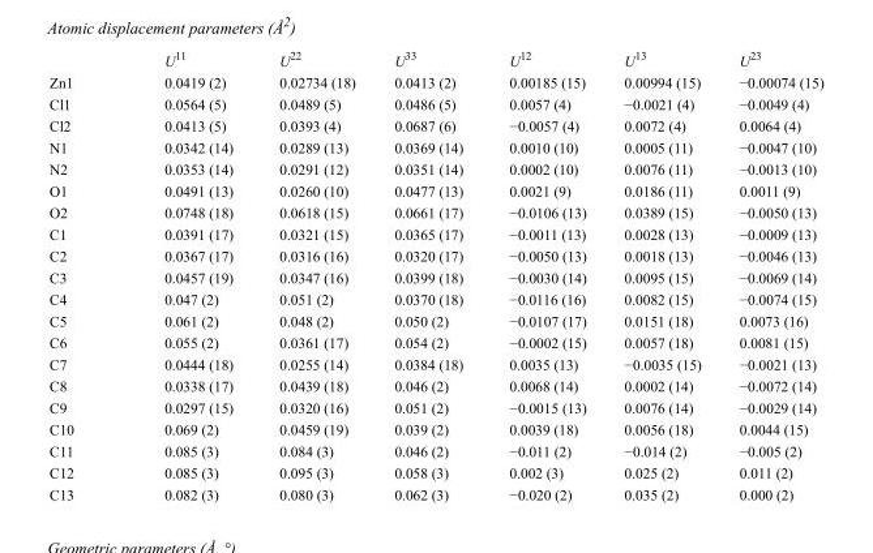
<table><thead><tr><td></td><td>U<sup>11</sup></td><td>U<sup>22</sup></td><td>U<sup>33</sup></td><td>U<sup>12</sup></td><td>U<sup>13</sup></td><td>U<sup>23</sup></td></tr></thead><tbody><tr><td>Zn1</td><td>0.0419 (2)</td><td>0.02734 (18)</td><td>0.0413 (2)</td><td>0.00185 (15)</td><td>0.00994 (15)</td><td>−0.00074 (15)</td></tr><tr><td>Cl1</td><td>0.0564 (5)</td><td>0.0489 (5)</td><td>0.0486 (5)</td><td>0.0057 (4)</td><td>−0.0021 (4)</td><td>−0.0049 (4)</td></tr><tr><td>Cl2</td><td>0.0413 (5)</td><td>0.0393 (4)</td><td>0.0687 (6)</td><td>−0.0057 (4)</td><td>0.0072 (4)</td><td>0.0064 (4)</td></tr><tr><td>N1</td><td>0.0342 (14)</td><td>0.0289 (13)</td><td>0.0369 (14)</td><td>0.0010 (10)</td><td>0.0005 (11)</td><td>−0.0047 (10)</td></tr><tr><td>N2</td><td>0.0353 (14)</td><td>0.0291 (12)</td><td>0.0351 (14)</td><td>0.0002 (10)</td><td>0.0076 (11)</td><td>−0.0013 (10)</td></tr><tr><td>O1</td><td>0.0491 (13)</td><td>0.0260 (10)</td><td>0.0477 (13)</td><td>0.0021 (9)</td><td>0.0186 (11)</td><td>0.0011 (9)</td></tr><tr><td>O2</td><td>0.0748 (18)</td><td>0.0618 (15)</td><td>0.0661 (17)</td><td>−0.0106 (13)</td><td>0.0389 (15)</td><td>−0.0050 (13)</td></tr><tr><td>C1</td><td>0.0391 (17)</td><td>0.0321 (15)</td><td>0.0365 (17)</td><td>−0.0011 (13)</td><td>0.0028 (13)</td><td>−0.0009 (13)</td></tr><tr><td>C2</td><td>0.0367 (17)</td><td>0.0316 (16)</td><td>0.0320 (17)</td><td>−0.0050 (13)</td><td>0.0018 (13)</td><td>−0.0046 (13)</td></tr><tr><td>C3</td><td>0.0457 (19)</td><td>0.0347 (16)</td><td>0.0399 (18)</td><td>−0.0030 (14)</td><td>0.0095 (15)</td><td>−0.0069 (14)</td></tr><tr><td>C4</td><td>0.047 (2)</td><td>0.051 (2)</td><td>0.0370 (18)</td><td>−0.0116 (16)</td><td>0.0082 (15)</td><td>−0.0074 (15)</td></tr><tr><td>C5</td><td>0.061 (2)</td><td>0.048 (2)</td><td>0.050 (2)</td><td>−0.0107 (17)</td><td>0.0151 (18)</td><td>0.0073 (16)</td></tr><tr><td>C6</td><td>0.055 (2)</td><td>0.0361 (17)</td><td>0.054 (2)</td><td>−0.0002 (15)</td><td>0.0057 (18)</td><td>0.0081 (15)</td></tr><tr><td>C7</td><td>0.0444 (18)</td><td>0.0255 (14)</td><td>0.0384 (18)</td><td>0.0035 (13)</td><td>−0.0035 (15)</td><td>−0.0021 (13)</td></tr><tr><td>C8</td><td>0.0338 (17)</td><td>0.0439 (18)</td><td>0.046 (2)</td><td>0.0068 (14)</td><td>0.0002 (14)</td><td>−0.0072 (14)</td></tr><tr><td>C9</td><td>0.0297 (15)</td><td>0.0320 (16)</td><td>0.051 (2)</td><td>−0.0015 (13)</td><td>0.0076 (14)</td><td>−0.0029 (14)</td></tr><tr><td>C10</td><td>0.069 (2)</td><td>0.0459 (19)</td><td>0.039 (2)</td><td>0.0039 (18)</td><td>0.0056 (18)</td><td>0.0044 (15)</td></tr><tr><td>C11</td><td>0.085 (3)</td><td>0.084 (3)</td><td>0.046 (2)</td><td>−0.011 (2)</td><td>−0.014 (2)</td><td>−0.005 (2)</td></tr><tr><td>C12</td><td>0.085 (3)</td><td>0.095 (3)</td><td>0.058 (3)</td><td>0.002 (3)</td><td>0.025 (2)</td><td>0.011 (2)</td></tr><tr><td>C13</td><td>0.082 (3)</td><td>0.080 (3)</td><td>0.062 (3)</td><td>−0.020 (2)</td><td>0.035 (2)</td><td>0.000 (2)</td></tr></tbody></table>